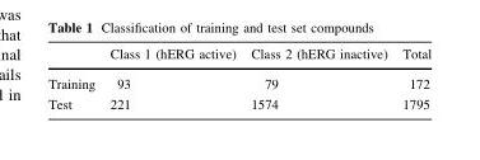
<table><thead><tr><td></td><td>Class 1 (hERG active)</td><td>Class 2 (hERG inactive)</td><td>Total</td></tr></thead><tbody><tr><td>Training</td><td>93</td><td>79</td><td>172</td></tr><tr><td>Test</td><td>221</td><td>1574</td><td>1795</td></tr></tbody></table>